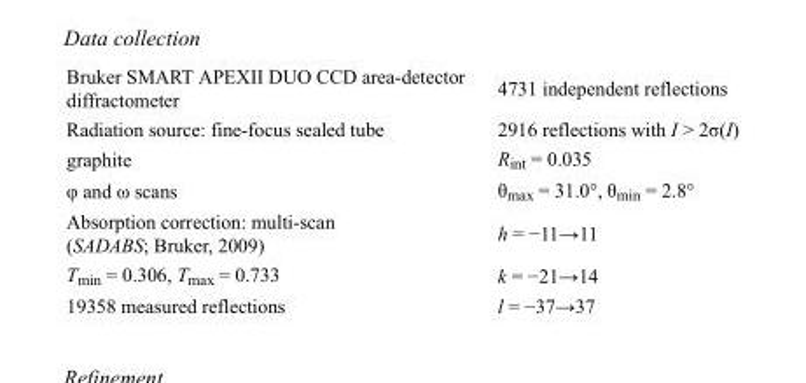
<table><tbody><tr><td>Bruker SMART APEXII DUO CCD area-detector diffractometer</td><td>4731 independent reflections</td></tr><tr><td>Radiation source: fine-focus sealed tube</td><td>2916 reflections with I &gt; 2σ(I)</td></tr><tr><td>graphite</td><td>R<sub>int</sub> = 0.035</td></tr><tr><td>φ and ω scans</td><td>θ<sub>max</sub> = 31.0°, θ<sub>min</sub> = 2.8°</td></tr><tr><td>Absorption correction: multi-scan (SADABS; Bruker, 2009)</td><td>h = −11→11</td></tr><tr><td>T<sub>min</sub> = 0.306, T<sub>max</sub> = 0.733</td><td>k = −21→14</td></tr><tr><td>19358 measured reflections</td><td>l = −37→37</td></tr></tbody></table>